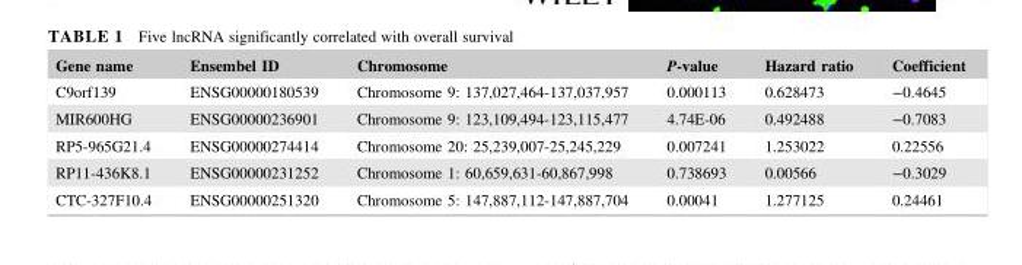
<table><thead><tr><td>Gene name</td><td>Ensembel ID</td><td>Chromosome</td><td>P-value</td><td>Hazard ratio</td><td>Coefficient</td></tr></thead><tbody><tr><td>C9orf139</td><td>ENSG00000180539</td><td>Chromosome 9: 137,027,464-137,037,957</td><td>0.000113</td><td>0.628473</td><td>−0.4645</td></tr><tr><td>MIR600HG</td><td>ENSG00000236901</td><td>Chromosome 9: 123,109,494-123,115,477</td><td>4.74E-06</td><td>0.492488</td><td>−0.7083</td></tr><tr><td>RP5-965G21.4</td><td>ENSG00000274414</td><td>Chromosome 20: 25,239,007-25,245,229</td><td>0.007241</td><td>1.253022</td><td>0.22556</td></tr><tr><td>RP11-436K8.1</td><td>ENSG00000231252</td><td>Chromosome 1: 60,659,631-60,867,998</td><td>0.738693</td><td>0.00566</td><td>−0.3029</td></tr><tr><td>CTC-327F10.4</td><td>ENSG00000251320</td><td>Chromosome 5: 147,887,112-147,887,704</td><td>0.00041</td><td>1.277125</td><td>0.24461</td></tr></tbody></table>